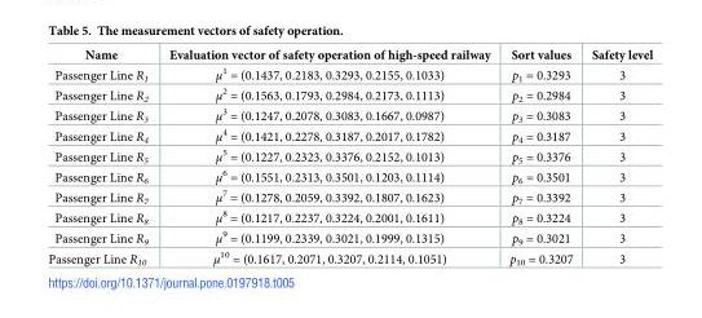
<table><thead><tr><td>Name</td><td>Evaluation vector of safety operation of high-speed railway</td><td>Sort values</td><td>Safety level</td></tr></thead><tbody><tr><td>Passenger Line R<sub>1</sub></td><td>μ<sup>1</sup> = (0.1437, 0.2183, 0.3293, 0.2155, 0.1033)</td><td>p<sub>1</sub> = 0.3293</td><td>3</td></tr><tr><td>Passenger Line R<sub>2</sub></td><td>μ<sup>2</sup> = (0.1563, 0.1793, 0.2984, 0.2173, 0.1113)</td><td>p<sub>2</sub> = 0.2984</td><td>3</td></tr><tr><td>Passenger Line R<sub>3</sub></td><td>μ<sup>3</sup> = (0.1247, 0.2078, 0.3083, 0.1667, 0.0987)</td><td>p<sub>3</sub> = 0.3083</td><td>3</td></tr><tr><td>Passenger Line R<sub>4</sub></td><td>μ<sup>4</sup> = (0.1421, 0.2278, 0.3187, 0.2017, 0.1782)</td><td>p<sub>4</sub> = 0.3187</td><td>3</td></tr><tr><td>Passenger Line R<sub>5</sub></td><td>μ<sup>5</sup> = (0.1227, 0.2323, 0.3376, 0.2152, 0.1013)</td><td>p<sub>5</sub> = 0.3376</td><td>3</td></tr><tr><td>Passenger Line R<sub>6</sub></td><td>μ<sup>6</sup> = (0.1551, 0.2313, 0.3501, 0.1203, 0.1114)</td><td>p<sub>6</sub> = 0.3501</td><td>3</td></tr><tr><td>Passenger Line R<sub>7</sub></td><td>μ<sup>7</sup> = (0.1278, 0.2059, 0.3392, 0.1807, 0.1623)</td><td>p<sub>7</sub> = 0.3392</td><td>3</td></tr><tr><td>Passenger Line R<sub>8</sub></td><td>μ<sup>8</sup> = (0.1217, 0.2237, 0.3224, 0.2001, 0.1611)</td><td>p<sub>8</sub> = 0.3224</td><td>3</td></tr><tr><td>Passenger Line R<sub>9</sub></td><td>μ<sup>9</sup> = (0.1199, 0.2339, 0.3021, 0.1999, 0.1315)</td><td>p<sub>9</sub> = 0.3021</td><td>3</td></tr><tr><td>Passenger Line R<sub>10</sub></td><td>μ<sup>10</sup> = (0.1617, 0.2071, 0.3207, 0.2114, 0.1051)</td><td>p<sub>10</sub> = 0.3207</td><td>3</td></tr></tbody></table>